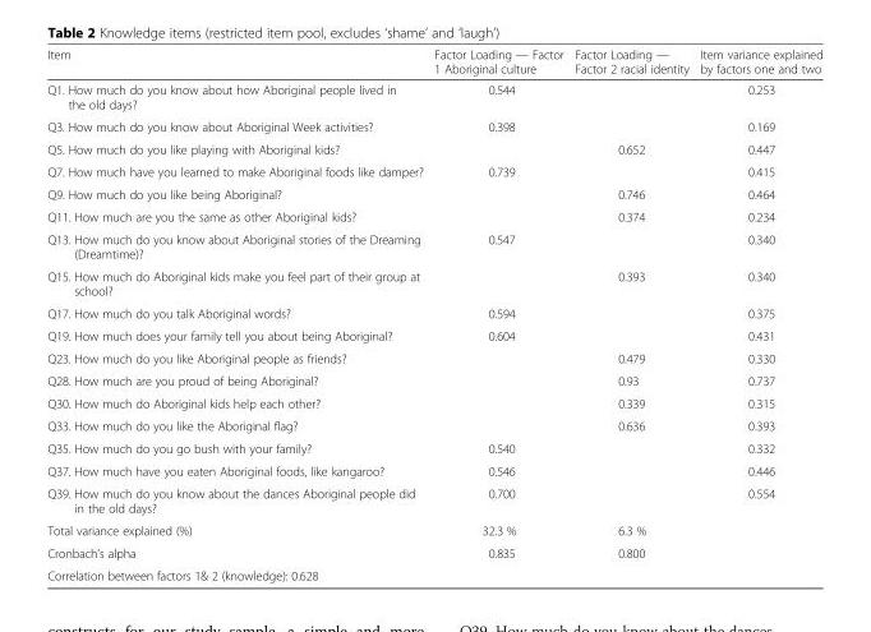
<table><thead><tr><td>Item</td><td>Factor Loading — Factor 1 Aboriginal culture</td><td>Factor Loading — Factor 2 racial identity</td><td>Item variance explained by factors one and two</td></tr></thead><tbody><tr><td>Q1. How much do you know about how Aboriginal people lived in the old days?</td><td>0.544</td><td></td><td>0.253</td></tr><tr><td>Q3. How much do you know about Aboriginal Week activities?</td><td>0.398</td><td></td><td>0.169</td></tr><tr><td>Q5. How much do you like playing with Aboriginal kids?</td><td></td><td>0.652</td><td>0.447</td></tr><tr><td>Q7. How much have you learned to make Aboriginal foods like damper?</td><td>0.739</td><td></td><td>0.415</td></tr><tr><td>Q9. How much do you like being Aboriginal?</td><td></td><td>0.746</td><td>0.464</td></tr><tr><td>Q11. How much are you the same as other Aboriginal kids?</td><td></td><td>0.374</td><td>0.234</td></tr><tr><td>Q13. How much do you know about Aboriginal stories of the Dreaming (Dreamtime)?</td><td>0.547</td><td></td><td>0.340</td></tr><tr><td>Q15. How much do Aboriginal kids make you feel part of their group at school?</td><td></td><td>0.393</td><td>0.340</td></tr><tr><td>Q17. How much do you talk Aboriginal words?</td><td>0.594</td><td></td><td>0.375</td></tr><tr><td>Q19. How much does your family tell you about being Aboriginal?</td><td>0.604</td><td></td><td>0.431</td></tr><tr><td>Q23. How much do you like Aboriginal people as friends?</td><td></td><td>0.479</td><td>0.330</td></tr><tr><td>Q28. How much are you proud of being Aboriginal?</td><td></td><td>0.93</td><td>0.737</td></tr><tr><td>Q30. How much do Aboriginal kids help each other?</td><td></td><td>0.339</td><td>0.315</td></tr><tr><td>Q33. How much do you like the Aboriginal flag?</td><td></td><td>0.636</td><td>0.393</td></tr><tr><td>Q35. How much do you go bush with your family?</td><td>0.540</td><td></td><td>0.332</td></tr><tr><td>Q37. How much have you eaten Aboriginal foods, like kangaroo?</td><td>0.546</td><td></td><td>0.446</td></tr><tr><td>Q39. How much do you know about the dances Aboriginal people did in the old days?</td><td>0.700</td><td></td><td>0.554</td></tr><tr><td>Total variance explained (%)</td><td>32.3 %</td><td>6.3 %</td><td></td></tr><tr><td>Cronbach’s alpha</td><td>0.835</td><td>0.800</td><td></td></tr><tr><td>Correlation between factors 1&amp; 2 (knowledge): 0.628</td><td></td><td></td><td></td></tr></tbody></table>